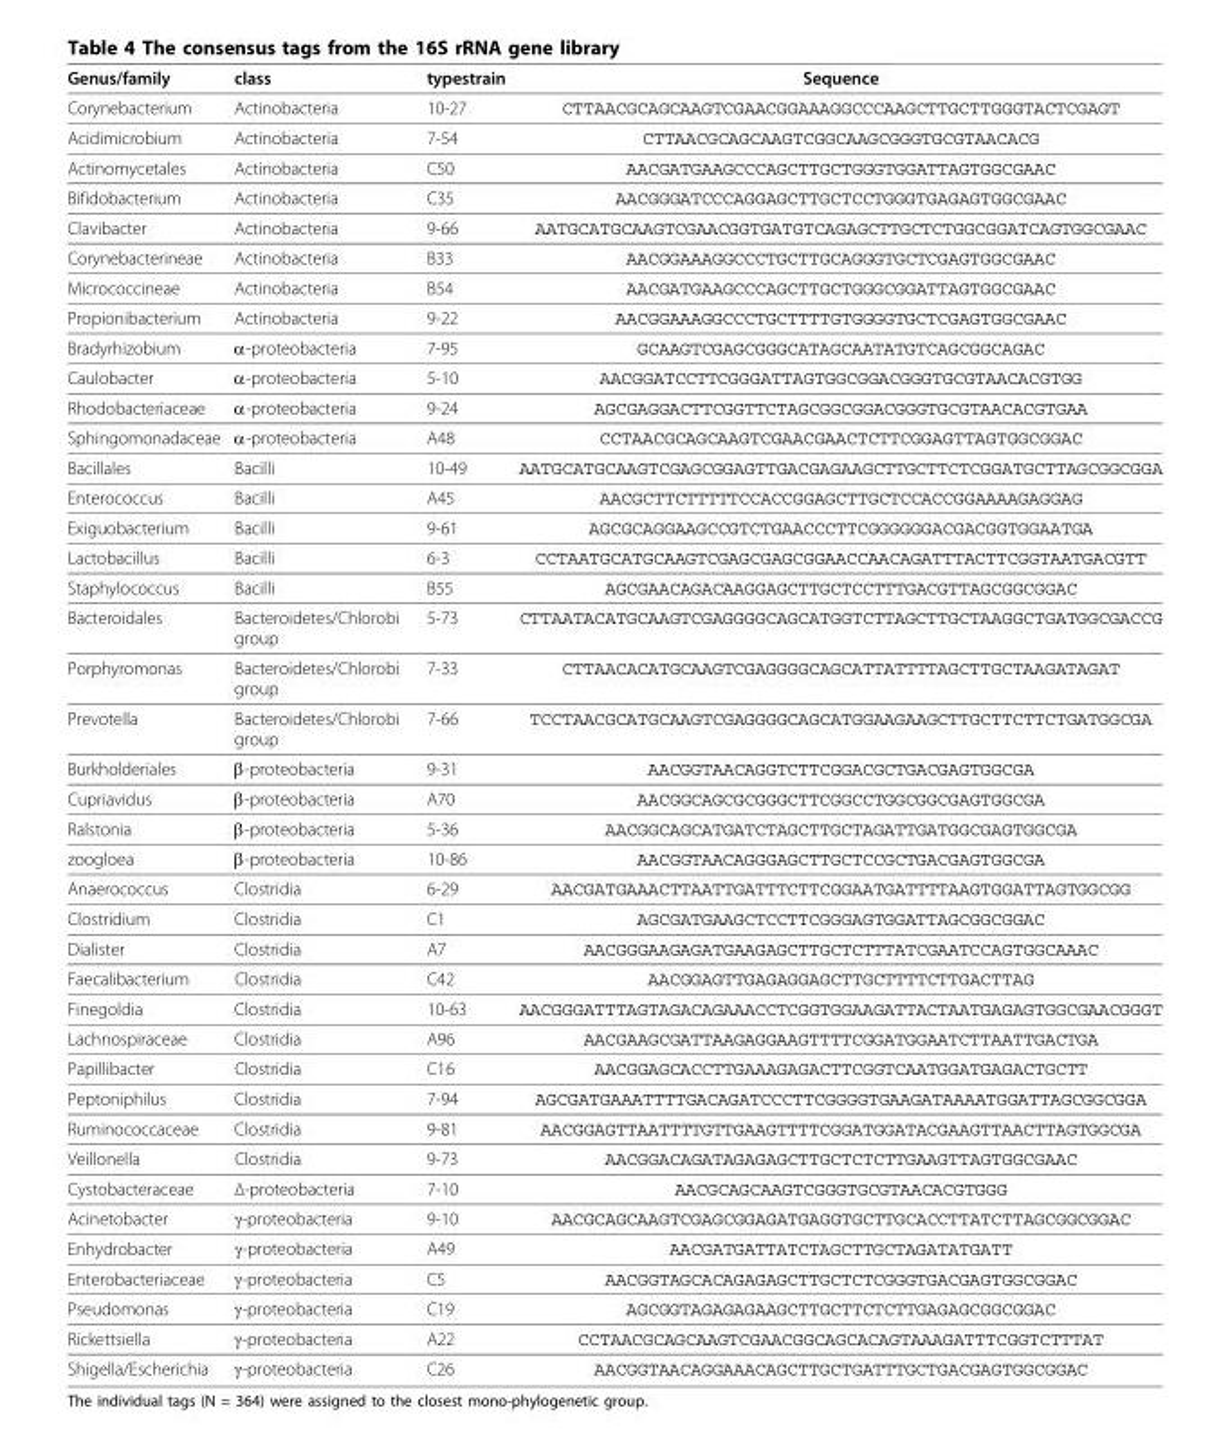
<table><thead><tr><td>Genus/family</td><td>class</td><td>typestrain</td><td>Sequence</td></tr></thead><tbody><tr><td>Corynebacterium</td><td>Actinobacteria</td><td>10-27</td><td>CTTAACGCAGCAAGTCGAACGGAAAGGCCCAAGCTTGCTTGGGTACTCGAGT</td></tr><tr><td>Acidimicrobium</td><td>Actinobacteria</td><td>7-54</td><td>CTTAACGCAGCAAGTCGGCAAGCGGGTGCGTAACACG</td></tr><tr><td>Actinomycetales</td><td>Actinobacteria</td><td>C50</td><td>AACGATGAAGCCCAGCTTGCTGGGTGGATTAGTGGCGAAC</td></tr><tr><td>Bifidobacterium</td><td>Actinobacteria</td><td>C35</td><td>AACGGGATCCCAGGAGCTTGCTCCTGGGTGAGAGTGGCGAAC</td></tr><tr><td>Clavibacter</td><td>Actinobacteria</td><td>9-66</td><td>AATGCATGCAAGTCGAACGGTGATGTCAGAGCTTGCTCTGGCGGATCAGTGGCGAAC</td></tr><tr><td>Corynebacterineae</td><td>Actinobacteria</td><td>B33</td><td>AACGGAAAGGCCCTGCTTGCAGGGTGCTCGAGTGGCGAAC</td></tr><tr><td>Micrococcineae</td><td>Actinobacteria</td><td>B54</td><td>AACGATGAAGCCCAGCTTGCTGGGCGGATTAGTGGCGAAC</td></tr><tr><td>Propionibacterium</td><td>Actinobacteria</td><td>9-22</td><td>AACGGAAAGGCCCTGCTTTTGTGGGGTGCTCGAGTGGCGAAC</td></tr><tr><td>Bradyrhizobium</td><td>α-proteobacteria</td><td>7-95</td><td>GCAAGTCGAGCGGGCATAGCAATATGTCAGCGGCAGAC</td></tr><tr><td>Caulobacter</td><td>α-proteobacteria</td><td>5-10</td><td>AACGGATCCTTCGGGATTAGTGGCGGACGGGTGCGTAACACGTGG</td></tr><tr><td>Rhodobacteriaceae</td><td>α-proteobacteria</td><td>9-24</td><td>AGCGAGGACTTCGGTTCTAGCGGCGGACGGGTGCGTAACACGTGAA</td></tr><tr><td>Sphingomonadaceae</td><td>α-proteobacteria</td><td>A48</td><td>CCTAACGCAGCAAGTCGAACGAACTCTTCGGAGTTAGTGGCGGAC</td></tr><tr><td>Bacillales</td><td>Bacilli</td><td>10-49</td><td>AATGCATGCAAGTCGAGCGGAGTTGACGAGAAGCTTGCTTCTCGGATGCTTAGCGGCGGA</td></tr><tr><td>Enterococcus</td><td>Bacilli</td><td>A45</td><td>AACGCTTCTTTTTCCACCGGAGCTTGCTCCACCGGAAAAGAGGAG</td></tr><tr><td>Exiguobacterium</td><td>Bacilli</td><td>9-61</td><td>AGCGCAGGAAGCCGTCTGAACCCTTCGGGGGGACGACGGTGGAATGA</td></tr><tr><td>Lactobacillus</td><td>Bacilli</td><td>6-3</td><td>CCTAATGCATGCAAGTCGAGCGAGCGGAACCAACAGATTTACTTCGGTAATGACGTT</td></tr><tr><td>Staphylococcus</td><td>Bacilli</td><td>B55</td><td>AGCGAACAGACAAGGAGCTTGCTCCTTTGACGTTAGCGGCGGAC</td></tr><tr><td>Bacteroidales</td><td>Bacteroidetes/Chlorobi group</td><td>5-73</td><td>CTTAATACATGCAAGTCGAGGGGCAGCATGGTCTTAGCTTGCTAAGGCTGATGGCGACCG</td></tr><tr><td>Porphyromonas</td><td>Bacteroidetes/Chlorobi group</td><td>7-33</td><td>CTTAACACATGCAAGTCGAGGGGCAGCATTATTTTAGCTTGCTAAGATAGAT</td></tr><tr><td>Prevotella</td><td>Bacteroidetes/Chlorobi group</td><td>7-66</td><td>TCCTAACGCATGCAAGTCGAGGGGCAGCATGGAAGAAGCTTGCTTCTTCTGATGGCGA</td></tr><tr><td>Burkholderiales</td><td>β-proteobacteria</td><td>9-31</td><td>AACGGTAACAGGTCTTCGGACGCTGACGAGTGGCGA</td></tr><tr><td>Cupriavidus</td><td>β-proteobacteria</td><td>A70</td><td>AACGGCAGCGCGGGCTTCGGCCTGGCGGCGAGTGGCGA</td></tr><tr><td>Ralstonia</td><td>β-proteobacteria</td><td>5-36</td><td>AACGGCAGCATGATCTAGCTTGCTAGATTGATGGCGAGTGGCGA</td></tr><tr><td>zoogloea</td><td>β-proteobacteria</td><td>10-86</td><td>AACGGTAACAGGGAGCTTGCTCCGCTGACGAGTGGCGA</td></tr><tr><td>Anaerococcus</td><td>Clostridia</td><td>6-29</td><td>AACGATGAAACTTAATTGATTTCTTCGGAATGATTTTAAGTGGATTAGTGGCGG</td></tr><tr><td>Clostridium</td><td>Clostridia</td><td>C1</td><td>AGCGATGAAGCTCCTTCGGGAGTGGATTAGCGGCGGAC</td></tr><tr><td>Dialister</td><td>Clostridia</td><td>A7</td><td>AACGGGAAGAGATGAAGAGCTTGCTCTTTATCGAATCCAGTGGCAAAC</td></tr><tr><td>Faecalibacterium</td><td>Clostridia</td><td>C42</td><td>AACGGAGTTGAGAGGAGCTTGCTTTTCTTGACTTAG</td></tr><tr><td>Finegoldia</td><td>Clostridia</td><td>10-63</td><td>AACGGGATTTAGTAGACAGAAACCTCGGTGGAAGATTACTAATGAGAGTGGCGAACGGGT</td></tr><tr><td>Lachnospiraceae</td><td>Clostridia</td><td>A96</td><td>AACGAAGCGATTAAGAGGAAGTTTTCGGATGGAATCTTAATTGACTGA</td></tr><tr><td>Papillibacter</td><td>Clostridia</td><td>C16</td><td>AACGGAGCACCTTGAAAGAGACTTCGGTCAATGGATGAGACTGCTT</td></tr><tr><td>Peptoniphilus</td><td>Clostridia</td><td>7-94</td><td>AGCGATGAAATTTTGACAGATCCCTTCGGGGTGAAGATAAAATGGATTAGCGGCGGA</td></tr><tr><td>Ruminococcaceae</td><td>Clostridia</td><td>9-81</td><td>AACGGAGTTAATTTTGTTGAAGTTTTCGGATGGATACGAAGTTAACTTAGTGGCGA</td></tr><tr><td>Veillonella</td><td>Clostridia</td><td>9-73</td><td>AACGGACAGATAGAGAGCTTGCTCTCTTGAAGTTAGTGGCGAAC</td></tr><tr><td>Cystobacteraceae</td><td>Δ-proteobacteria</td><td>7-10</td><td>AACGCAGCAAGTCGGGTGCGTAACACGTGGG</td></tr><tr><td>Acinetobacter</td><td>γ-proteobacteria</td><td>9-10</td><td>AACGCAGCAAGTCGAGCGGAGATGAGGTGCTTGCACCTTATCTTAGCGGCGGAC</td></tr><tr><td>Enhydrobacter</td><td>γ-proteobacteria</td><td>A49</td><td>AACGATGATTATCTAGCTTGCTAGATATGATT</td></tr><tr><td>Enterobacteriaceae</td><td>γ-proteobacteria</td><td>C5</td><td>AACGGTAGCACAGAGAGCTTGCTCTCGGGTGACGAGTGGCGGAC</td></tr><tr><td>Pseudomonas</td><td>γ-proteobacteria</td><td>C19</td><td>AGCGGTAGAGAGAAGCTTGCTTCTCTTGAGAGCGGCGGAC</td></tr><tr><td>Rickettsiella</td><td>γ-proteobacteria</td><td>A22</td><td>CCTAACGCAGCAAGTCGAACGGCAGCACAGTAAAGATTTCGGTCTTTAT</td></tr><tr><td>Shigella/Escherichia</td><td>γ-proteobacteria</td><td>C26</td><td>AACGGTAACAGGAAACAGCTTGCTGATTTGCTGACGAGTGGCGGAC</td></tr></tbody></table>